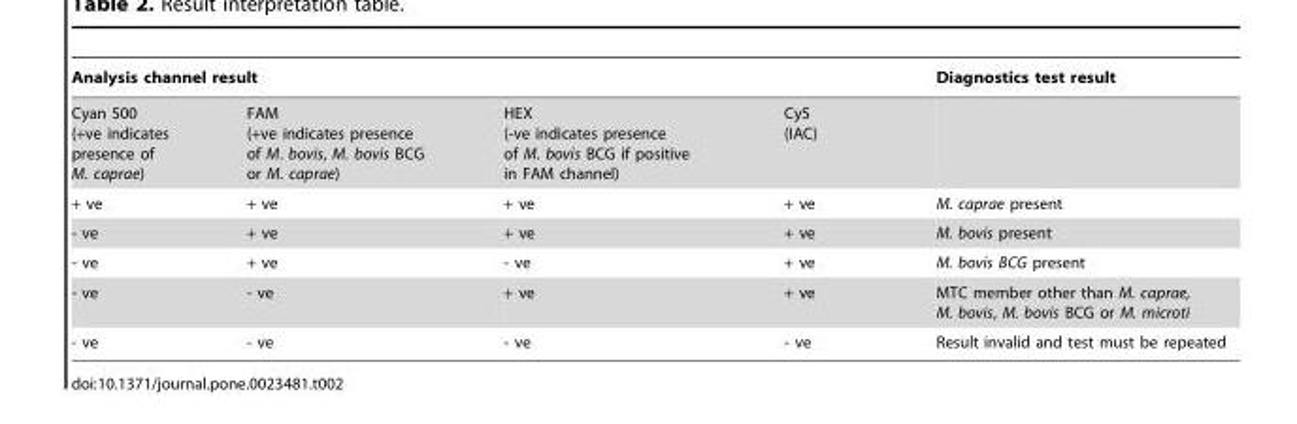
<table><thead><tr><td colspan="4">Analysis channel result</td><td rowspan="2">Diagnostics test result</td></tr><tr><td>Cyan 500 (+ve indicates presence of M. caprae)</td><td>FAM (+ve indicates presence of M. bovis, M. bovis BCG or M. caprae)</td><td>HEX (-ve indicates presence of M. bovis BCG if positive in FAM channel)</td><td>Cy5 (IAC)</td></tr></thead><tbody><tr><td>+ ve</td><td>+ ve</td><td>+ ve</td><td>+ ve</td><td>M. caprae present</td></tr><tr><td>- ve</td><td>+ ve</td><td>+ ve</td><td>+ ve</td><td>M. bovis present</td></tr><tr><td>- ve</td><td>+ ve</td><td>- ve</td><td>+ ve</td><td>M. bovis BCG present</td></tr><tr><td>- ve</td><td>- ve</td><td>+ ve</td><td>+ ve</td><td>MTC member other than M. caprae, M. bovis, M. bovis BCG or M. microti</td></tr><tr><td>- ve</td><td>- ve</td><td>- ve</td><td>- ve</td><td>Result invalid and test must be repeated</td></tr></tbody></table>